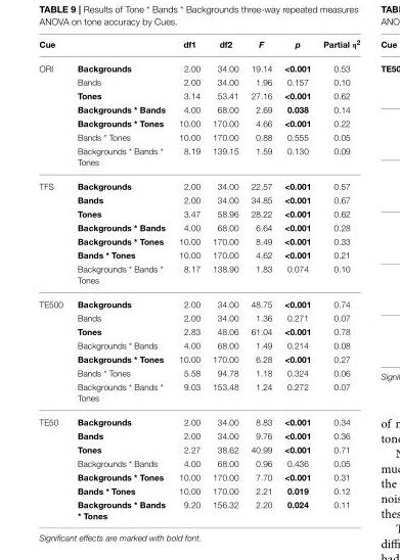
<table><thead><tr><td>Cue</td><td></td><td>df1</td><td>df2</td><td>F</td><td>p</td><td>Partial η<sup>2</sup></td></tr></thead><tbody><tr><td rowspan="7">ORI</td><td>Backgrounds</td><td>2.00</td><td>34.00</td><td>19.14</td><td>&lt;0.001</td><td>0.53</td></tr><tr><td>Bands</td><td>2.00</td><td>34.00</td><td>1.96</td><td>0.157</td><td>0.10</td></tr><tr><td>Tones</td><td>3.14</td><td>53.41</td><td>27.16</td><td>&lt;0.001</td><td>0.62</td></tr><tr><td>Backgrounds * Bands</td><td>4.00</td><td>68.00</td><td>2.69</td><td>0.038</td><td>0.14</td></tr><tr><td>Backgrounds * Tones</td><td>10.00</td><td>170.00</td><td>4.66</td><td>&lt;0.001</td><td>0.22</td></tr><tr><td>Bands * Tones</td><td>10.00</td><td>170.00</td><td>0.88</td><td>0.555</td><td>0.05</td></tr><tr><td>Backgrounds * Bands * Tones</td><td>8.19</td><td>139.15</td><td>1.59</td><td>0.130</td><td>0.09</td></tr><tr><td rowspan="7">TFS</td><td>Backgrounds</td><td>2.00</td><td>34.00</td><td>22.57</td><td>&lt;0.001</td><td>0.57</td></tr><tr><td>Bands</td><td>2.00</td><td>34.00</td><td>34.85</td><td>&lt;0.001</td><td>0.67</td></tr><tr><td>Tones</td><td>3.47</td><td>58.96</td><td>28.22</td><td>&lt;0.001</td><td>0.62</td></tr><tr><td>Backgrounds * Bands</td><td>4.00</td><td>68.00</td><td>6.64</td><td>&lt;0.001</td><td>0.28</td></tr><tr><td>Backgrounds * Tones</td><td>10.00</td><td>170.00</td><td>8.49</td><td>&lt;0.001</td><td>0.33</td></tr><tr><td>Bands * Tones</td><td>10.00</td><td>170.00</td><td>4.62</td><td>&lt;0.001</td><td>0.21</td></tr><tr><td>Backgrounds * Bands * Tones</td><td>8.17</td><td>138.90</td><td>1.83</td><td>0.074</td><td>0.10</td></tr><tr><td rowspan="7">TE500</td><td>Backgrounds</td><td>2.00</td><td>34.00</td><td>48.75</td><td>&lt;0.001</td><td>0.74</td></tr><tr><td>Bands</td><td>2.00</td><td>34.00</td><td>1.36</td><td>0.271</td><td>0.07</td></tr><tr><td>Tones</td><td>2.83</td><td>48.06</td><td>61.04</td><td>&lt;0.001</td><td>0.78</td></tr><tr><td>Backgrounds * Bands</td><td>4.00</td><td>68.00</td><td>1.49</td><td>0.214</td><td>0.08</td></tr><tr><td>Backgrounds * Tones</td><td>10.00</td><td>170.00</td><td>6.28</td><td>&lt;0.001</td><td>0.27</td></tr><tr><td>Bands * Tones</td><td>5.58</td><td>94.78</td><td>1.18</td><td>0.324</td><td>0.06</td></tr><tr><td>Backgrounds * Bands * Tones</td><td>9.03</td><td>153.48</td><td>1.24</td><td>0.272</td><td>0.07</td></tr><tr><td rowspan="7">TE50</td><td>Backgrounds</td><td>2.00</td><td>34.00</td><td>8.83</td><td>&lt;0.001</td><td>0.34</td></tr><tr><td>Bands</td><td>2.00</td><td>34.00</td><td>9.76</td><td>&lt;0.001</td><td>0.36</td></tr><tr><td>Tones</td><td>2.27</td><td>38.62</td><td>40.99</td><td>&lt;0.001</td><td>0.71</td></tr><tr><td>Backgrounds * Bands</td><td>4.00</td><td>68.00</td><td>0.96</td><td>0.436</td><td>0.05</td></tr><tr><td>Backgrounds * Tones</td><td>10.00</td><td>170.00</td><td>7.70</td><td>&lt;0.001</td><td>0.31</td></tr><tr><td>Bands * Tones</td><td>10.00</td><td>170.00</td><td>2.21</td><td>0.019</td><td>0.12</td></tr><tr><td>Backgrounds * Bands * Tones</td><td>9.20</td><td>156.32</td><td>2.20</td><td>0.024</td><td>0.11</td></tr></tbody></table>